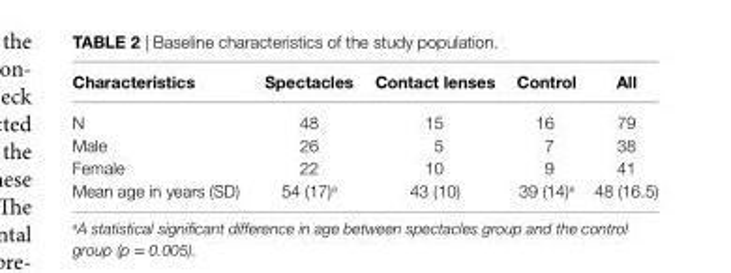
<table><thead><tr><td>characteristics</td><td>spectacles</td><td>contact lenses</td><td>control</td><td>all</td></tr></thead><tbody><tr><td>N</td><td>48</td><td>15</td><td>16</td><td>79</td></tr><tr><td>Male</td><td>26</td><td>5</td><td>7</td><td>38</td></tr><tr><td>Female</td><td>22</td><td>10</td><td>9</td><td>41</td></tr><tr><td>Mean age in years (SD)</td><td>54 (17)<sup>a</sup></td><td>43 (10)</td><td>39 (14)<sup>a</sup></td><td>48 (16.5)</td></tr></tbody></table>